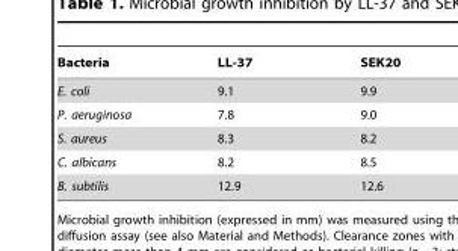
<table><thead><tr><td>Bacteria</td><td>LL-37</td><td>SEK20</td></tr></thead><tbody><tr><td>E. coli</td><td>9.1</td><td>9.9</td></tr><tr><td>P. aeruginosa</td><td>7.8</td><td>9.0</td></tr><tr><td>S. aureus</td><td>8.3</td><td>8.2</td></tr><tr><td>C. albicans</td><td>8.2</td><td>8.5</td></tr><tr><td>B. subtilis</td><td>12.9</td><td>12.6</td></tr></tbody></table>